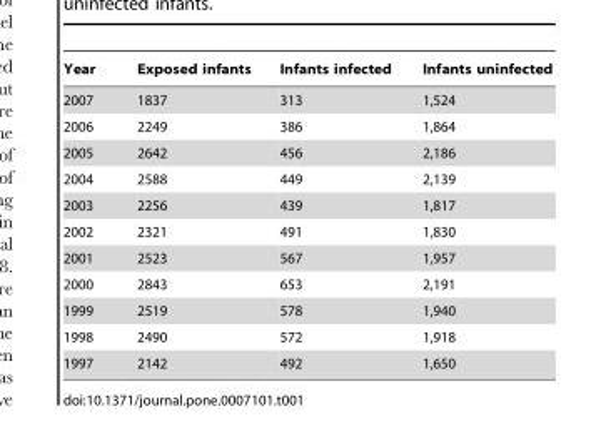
<table><thead><tr><td>Year</td><td>Exposed infants</td><td>Infants infected</td><td>Infants uninfected</td></tr></thead><tbody><tr><td>2007</td><td>1837</td><td>313</td><td>1,524</td></tr><tr><td>2006</td><td>2249</td><td>386</td><td>1,864</td></tr><tr><td>2005</td><td>2642</td><td>456</td><td>2,186</td></tr><tr><td>2004</td><td>2588</td><td>449</td><td>2,139</td></tr><tr><td>2003</td><td>2256</td><td>439</td><td>1,817</td></tr><tr><td>2002</td><td>2321</td><td>491</td><td>1,830</td></tr><tr><td>2001</td><td>2523</td><td>567</td><td>1,957</td></tr><tr><td>2000</td><td>2843</td><td>653</td><td>2,191</td></tr><tr><td>1999</td><td>2519</td><td>578</td><td>1,940</td></tr><tr><td>1998</td><td>2490</td><td>572</td><td>1,918</td></tr><tr><td>1997</td><td>2142</td><td>492</td><td>1,650</td></tr></tbody></table>